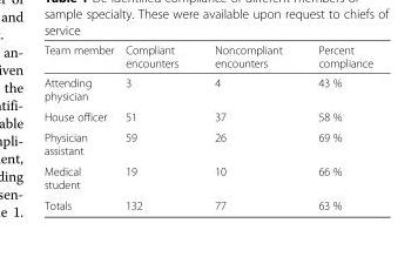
<table><thead><tr><td>Team member</td><td>Compliant encounters</td><td>Noncompliant encounters</td><td>Percent compliance</td></tr></thead><tbody><tr><td>Attending physician</td><td>3</td><td>4</td><td>43 %</td></tr><tr><td>House officer</td><td>51</td><td>37</td><td>58 %</td></tr><tr><td>Physician assistant</td><td>59</td><td>26</td><td>69 %</td></tr><tr><td>Medical student</td><td>19</td><td>10</td><td>66 %</td></tr><tr><td>Totals</td><td>132</td><td>77</td><td>63 %</td></tr></tbody></table>